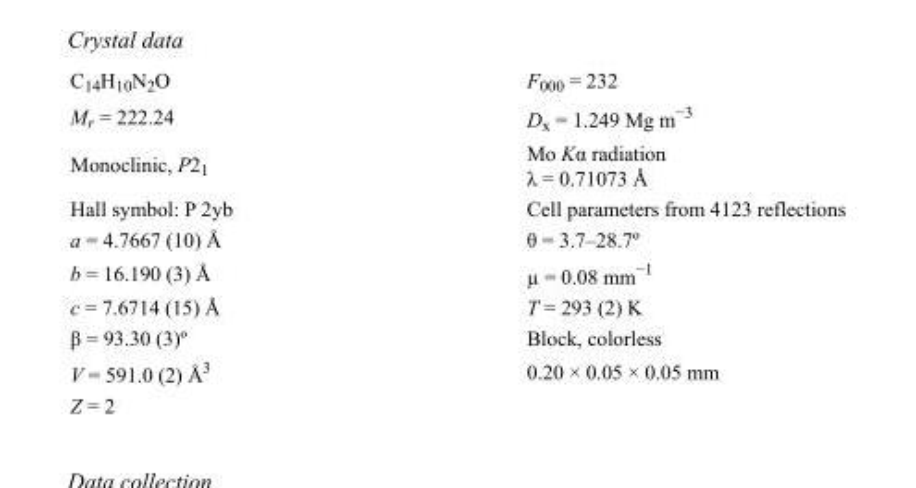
<table><tbody><tr><td>C<sub>14</sub>H<sub>10</sub>N<sub>2</sub>O</td><td>F<sub>000</sub> = 232</td></tr><tr><td>M<sub>r</sub> = 222.24</td><td>D<sub>x</sub> = 1.249 Mg m<sup>−3</sup></td></tr><tr><td>Monoclinic, P2<sub>1</sub></td><td>Mo Kα radiation λ = 0.71073 Å</td></tr><tr><td>Hall symbol: P 2yb</td><td>Cell parameters from 4123 reflections</td></tr><tr><td>a = 4.7667 (10) Å</td><td>θ = 3.7–28.7º</td></tr><tr><td>b = 16.190 (3) Å</td><td>µ = 0.08 mm<sup>−1</sup></td></tr><tr><td>c = 7.6714 (15) Å</td><td>T = 293 (2) K</td></tr><tr><td>β = 93.30 (3)º</td><td>Block, colorless</td></tr><tr><td>V = 591.0 (2) Å<sup>3</sup></td><td>0.20 × 0.05 × 0.05 mm</td></tr><tr><td>Z = 2</td><td></td></tr></tbody></table>